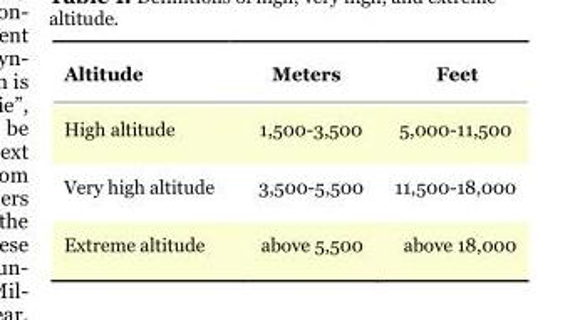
<table><thead><tr><td>Altitude</td><td>Meters</td><td>Feet</td></tr></thead><tbody><tr><td>High altitude</td><td>1,500-3,500</td><td>5,000-11,500</td></tr><tr><td>Very high altitude</td><td>3,500-5,500</td><td>11,500-18,000</td></tr><tr><td>Extreme altitude</td><td>above 5,500</td><td>above 18,000</td></tr></tbody></table>